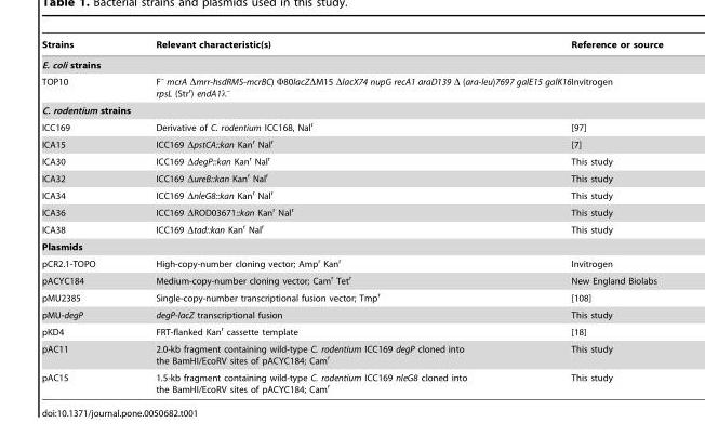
<table><thead><tr><td>Strains</td><td>Relevant characteristic(s)</td><td>Reference or source</td></tr></thead><tbody><tr><td colspan="3">E. coli strains</td></tr><tr><td>TOP10</td><td>F<sup>–</sup> mcrA Δmrr-hsdRMS-mcrBC) Ф80lacZΔM15 ΔlacX74 nupG recA1 araD139 Δ (ara-leu)7697 galE15 galK16 rpsL (Str<sup>r</sup>) endA1λ<sup>–</sup></td><td>Invitrogen</td></tr><tr><td colspan="3">C. rodentium strains</td></tr><tr><td>ICC169</td><td>Derivative of C. rodentium ICC168, Nal<sup>r</sup></td><td>[97]</td></tr><tr><td>ICA15</td><td>ICC169 ΔpstCA::kan Kan<sup>r</sup> Nal<sup>r</sup></td><td>[7]</td></tr><tr><td>ICA30</td><td>ICC169 ΔdegP::kan Kan<sup>r</sup> Nal<sup>r</sup></td><td>This study</td></tr><tr><td>ICA32</td><td>ICC169 ΔureB::kan Kan<sup>r</sup> Nal<sup>r</sup></td><td>This study</td></tr><tr><td>ICA34</td><td>ICC169 ΔnleG8::kan Kan<sup>r</sup> Nal<sup>r</sup></td><td>This study</td></tr><tr><td>ICA36</td><td>ICC169 ΔROD03671::kan Kan<sup>r</sup> Nal<sup>r</sup></td><td>This study</td></tr><tr><td>ICA38</td><td>ICC169 Δtad::kan Kan<sup>r</sup> Nal<sup>r</sup></td><td>This study</td></tr><tr><td colspan="3">Plasmids</td></tr><tr><td>pCR2.1-TOPO</td><td>High-copy-number cloning vector; Amp<sup>r</sup> Kan<sup>r</sup></td><td>Invitrogen</td></tr><tr><td>pACYC184</td><td>Medium-copy-number cloning vector; Cam<sup>r</sup> Tet<sup>r</sup></td><td>New England Biolabs</td></tr><tr><td>pMU2385</td><td>Single-copy-number transcriptional fusion vector; Tmp<sup>r</sup></td><td>[108]</td></tr><tr><td>pMU-degP</td><td>degP-lacZ transcriptional fusion</td><td>This study</td></tr><tr><td>pKD4</td><td>FRT-flanked Kan<sup>r</sup> cassette template</td><td>[18]</td></tr><tr><td>pAC11</td><td>2.0-kb fragment containing wild-type C. rodentium ICC169 degP cloned into the BamHI/EcoRV sites of pACYC184; Cam<sup>r</sup></td><td>This study</td></tr><tr><td>pAC15</td><td>1.5-kb fragment containing wild-type C. rodentium ICC169 nleG8 cloned into the BamHI/EcoRV sites of pACYC184; Cam<sup>r</sup></td><td>This study</td></tr></tbody></table>